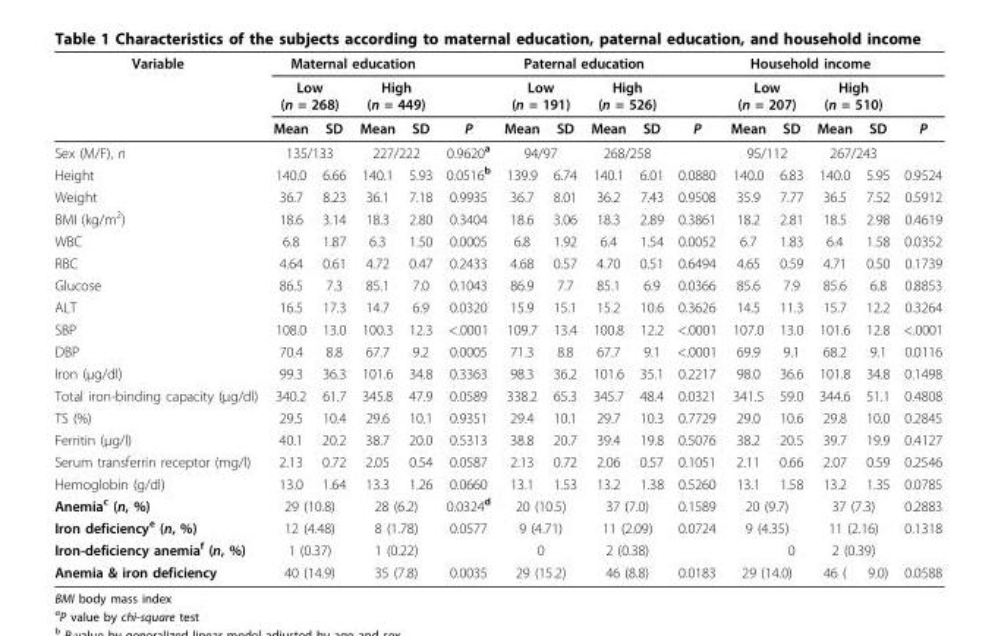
<table><thead><tr><td rowspan="3">Variable</td><td colspan="4">Maternal education</td><td rowspan="3">P</td><td colspan="4">Paternal education</td><td rowspan="3">P</td><td colspan="4">Household income</td><td rowspan="3">P</td></tr><tr><td colspan="2">Low (n = 268)</td><td colspan="2">High (n = 449)</td><td colspan="2">Low (n = 191)</td><td colspan="2">High (n = 526)</td><td colspan="2">Low (n = 207)</td><td colspan="2">High (n = 510)</td></tr><tr><td>Mean</td><td>SD</td><td>Mean</td><td>SD</td><td>Mean</td><td>SD</td><td>Mean</td><td>SD</td><td>Mean</td><td>SD</td><td>Mean</td><td>SD</td></tr></thead><tbody><tr><td>Sex (M/F), n</td><td colspan="2">135/133</td><td colspan="2">227/222</td><td>0.9620<sup>a</sup></td><td colspan="2">94/97</td><td colspan="2">268/258</td><td></td><td colspan="2">95/112</td><td colspan="2">267/243</td><td></td></tr><tr><td>Height</td><td>140.0</td><td>6.66</td><td>140.1</td><td>5.93</td><td>0.0516<sup>b</sup></td><td>139.9</td><td>6.74</td><td>140.1</td><td>6.01</td><td>0.0880</td><td>140.0</td><td>6.83</td><td>140.0</td><td>5.95</td><td>0.9524</td></tr><tr><td>Weight</td><td>36.7</td><td>8.23</td><td>36.1</td><td>7.18</td><td>0.9935</td><td>36.7</td><td>8.01</td><td>36.2</td><td>7.43</td><td>0.9508</td><td>35.9</td><td>7.77</td><td>36.5</td><td>7.52</td><td>0.5912</td></tr><tr><td>BMI (kg/m<sup>2</sup>)</td><td>18.6</td><td>3.14</td><td>18.3</td><td>2.80</td><td>0.3404</td><td>18.6</td><td>3.06</td><td>18.3</td><td>2.89</td><td>0.3861</td><td>18.2</td><td>2.81</td><td>18.5</td><td>2.98</td><td>0.4619</td></tr><tr><td>WBC</td><td>6.8</td><td>1.87</td><td>6.3</td><td>1.50</td><td>0.0005</td><td>6.8</td><td>1.92</td><td>6.4</td><td>1.54</td><td>0.0052</td><td>6.7</td><td>1.83</td><td>6.4</td><td>1.58</td><td>0.0352</td></tr><tr><td>RBC</td><td>4.64</td><td>0.61</td><td>4.72</td><td>0.47</td><td>0.2433</td><td>4.68</td><td>0.57</td><td>4.70</td><td>0.51</td><td>0.6494</td><td>4.65</td><td>0.59</td><td>4.71</td><td>0.50</td><td>0.1739</td></tr><tr><td>Glucose</td><td>86.5</td><td>7.3</td><td>85.1</td><td>7.0</td><td>0.1043</td><td>86.9</td><td>7.7</td><td>85.1</td><td>6.9</td><td>0.0366</td><td>85.6</td><td>7.9</td><td>85.6</td><td>6.8</td><td>0.8853</td></tr><tr><td>ALT</td><td>16.5</td><td>17.3</td><td>14.7</td><td>6.9</td><td>0.0320</td><td>15.9</td><td>15.1</td><td>15.2</td><td>10.6</td><td>0.3626</td><td>14.5</td><td>11.3</td><td>15.7</td><td>12.2</td><td>0.3264</td></tr><tr><td>SBP</td><td>108.0</td><td>13.0</td><td>100.3</td><td>12.3</td><td>&lt;.0001</td><td>109.7</td><td>13.4</td><td>100.8</td><td>12.2</td><td>&lt;.0001</td><td>107.0</td><td>13.0</td><td>101.6</td><td>12.8</td><td>&lt;.0001</td></tr><tr><td>DBP</td><td>70.4</td><td>8.8</td><td>67.7</td><td>9.2</td><td>0.0005</td><td>71.3</td><td>8.8</td><td>67.7</td><td>9.1</td><td>&lt;.0001</td><td>69.9</td><td>9.1</td><td>68.2</td><td>9.1</td><td>0.0116</td></tr><tr><td>Iron (μg/dl)</td><td>99.3</td><td>36.3</td><td>101.6</td><td>34.8</td><td>0.3363</td><td>98.3</td><td>36.2</td><td>101.6</td><td>35.1</td><td>0.2217</td><td>98.0</td><td>36.6</td><td>101.8</td><td>34.8</td><td>0.1498</td></tr><tr><td>Total iron-binding capacity (μg/dl)</td><td>340.2</td><td>61.7</td><td>345.8</td><td>47.9</td><td>0.0589</td><td>338.2</td><td>65.3</td><td>345.7</td><td>48.4</td><td>0.0321</td><td>341.5</td><td>59.0</td><td>344.6</td><td>51.1</td><td>0.4808</td></tr><tr><td>TS (%)</td><td>29.5</td><td>10.4</td><td>29.6</td><td>10.1</td><td>0.9351</td><td>29.4</td><td>10.1</td><td>29.7</td><td>10.3</td><td>0.7729</td><td>29.0</td><td>10.6</td><td>29.8</td><td>10.0</td><td>0.2845</td></tr><tr><td>Ferritin (μg/l)</td><td>40.1</td><td>20.2</td><td>38.7</td><td>20.0</td><td>0.5313</td><td>38.8</td><td>20.7</td><td>39.4</td><td>19.8</td><td>0.5076</td><td>38.2</td><td>20.5</td><td>39.7</td><td>19.9</td><td>0.4127</td></tr><tr><td>Serum transferrin receptor (mg/l)</td><td>2.13</td><td>0.72</td><td>2.05</td><td>0.54</td><td>0.0587</td><td>2.13</td><td>0.72</td><td>2.06</td><td>0.57</td><td>0.1051</td><td>2.11</td><td>0.66</td><td>2.07</td><td>0.59</td><td>0.2546</td></tr><tr><td>Hemoglobin (g/dl)</td><td>13.0</td><td>1.64</td><td>13.3</td><td>1.26</td><td>0.0660</td><td>13.1</td><td>1.53</td><td>13.2</td><td>1.38</td><td>0.5260</td><td>13.1</td><td>1.58</td><td>13.2</td><td>1.35</td><td>0.0785</td></tr><tr><td>Anemia<sup>c</sup> (n, %)</td><td colspan="2">29 (10.8)</td><td colspan="2">28 (6.2)</td><td>0.0324<sup>d</sup></td><td colspan="2">20 (10.5)</td><td colspan="2">37 (7.0)</td><td>0.1589</td><td colspan="2">20 (9.7)</td><td colspan="2">37 (7.3)</td><td>0.2883</td></tr><tr><td>Iron deficiency<sup>e</sup> (n, %)</td><td colspan="2">12 (4.48)</td><td colspan="2">8 (1.78)</td><td>0.0577</td><td colspan="2">9 (4.71)</td><td colspan="2">11 (2.09)</td><td>0.0724</td><td colspan="2">9 (4.35)</td><td colspan="2">11 (2.16)</td><td>0.1318</td></tr><tr><td>Iron-deficiency anemia<sup>f</sup> (n, %)</td><td colspan="2">1 (0.37)</td><td colspan="2">1 (0.22)</td><td></td><td colspan="2">0</td><td colspan="2">2 (0.38)</td><td></td><td></td><td>0</td><td colspan="2">2 (0.39)</td><td></td></tr><tr><td>Anemia &amp; iron deficiency</td><td colspan="2">40 (14.9)</td><td colspan="2">35 (7.8)</td><td>0.0035</td><td colspan="2">29 (15.2)</td><td colspan="2">46 (8.8)</td><td>0.0183</td><td colspan="2">29 (14.0)</td><td>46 (</td><td>9.0)</td><td>0.0588</td></tr></tbody></table>